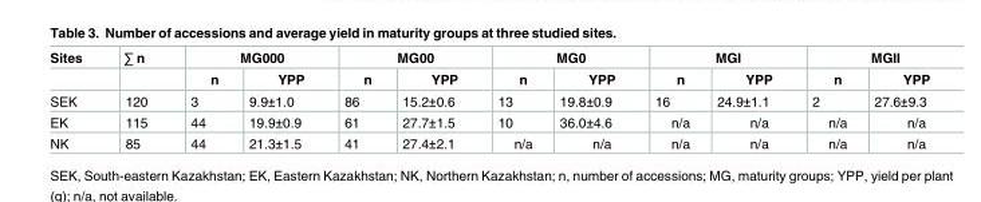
<table><thead><tr><td rowspan="2">Sites</td><td rowspan="2">∑ n</td><td colspan="2">MG000</td><td colspan="2">MG00</td><td colspan="2">MG0</td><td colspan="2">MGI</td><td colspan="2">MGII</td></tr><tr><td>n</td><td>YPP</td><td>n</td><td>YPP</td><td>n</td><td>YPP</td><td>n</td><td>YPP</td><td>n</td><td>YPP</td></tr></thead><tbody><tr><td>SEK</td><td>120</td><td>3</td><td>9.9±1.0</td><td>86</td><td>15.2±0.6</td><td>13</td><td>19.8±0.9</td><td>16</td><td>24.9±1.1</td><td>2</td><td>27.6±9.3</td></tr><tr><td>EK</td><td>115</td><td>44</td><td>19.9±0.9</td><td>61</td><td>27.7±1.5</td><td>10</td><td>36.0±4.6</td><td>n/a</td><td>n/a</td><td>n/a</td><td>n/a</td></tr><tr><td>NK</td><td>85</td><td>44</td><td>21.3±1.5</td><td>41</td><td>27.4±2.1</td><td>n/a</td><td>n/a</td><td>n/a</td><td>n/a</td><td>n/a</td><td>n/a</td></tr></tbody></table>